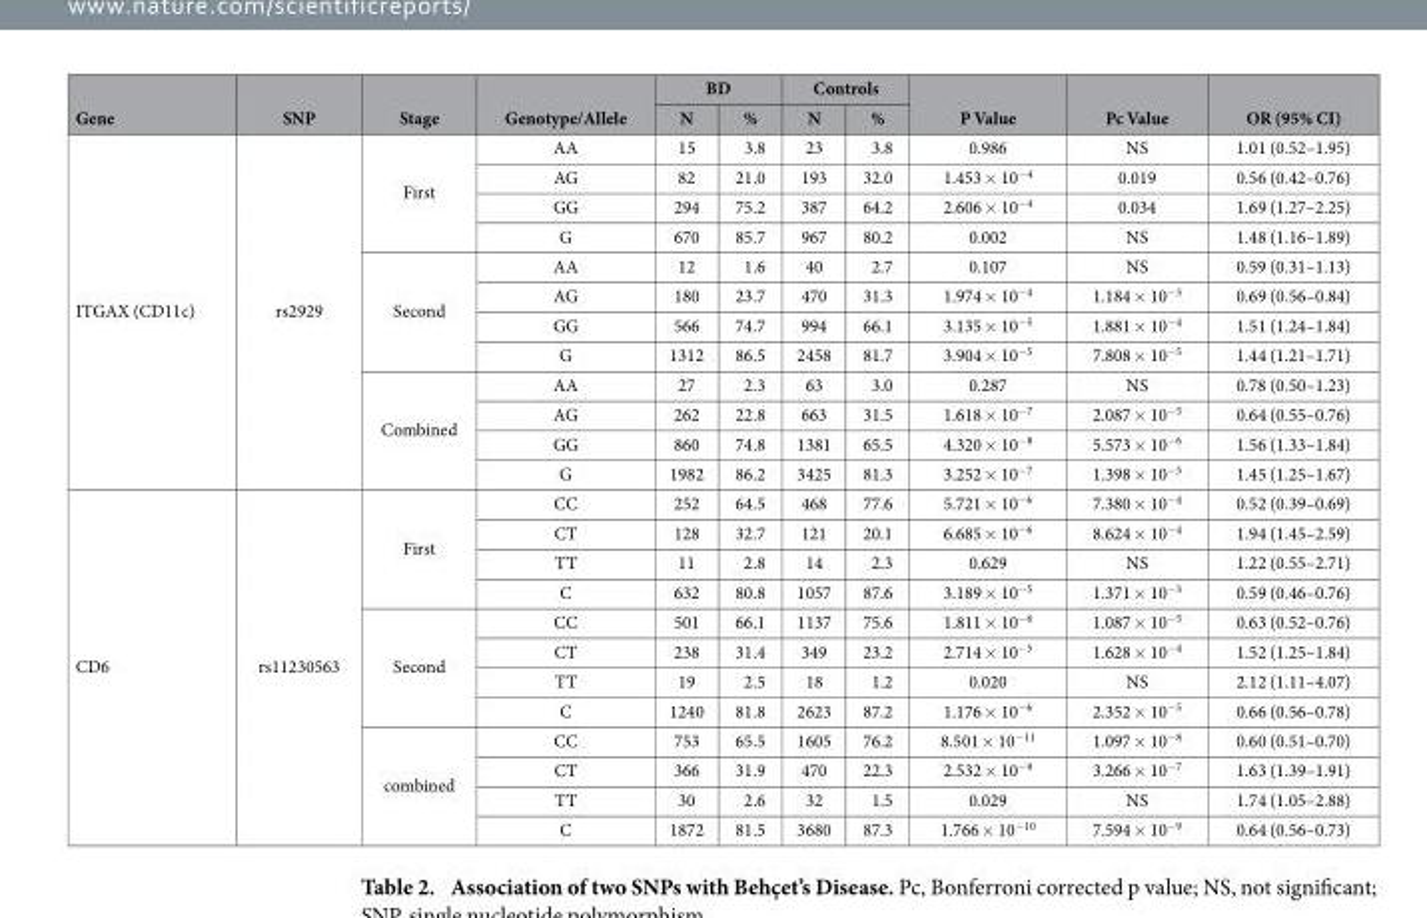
<table><thead><tr><td rowspan="2">Gene</td><td rowspan="2">SNP</td><td rowspan="2">Stage</td><td rowspan="2">Genotype/Allele</td><td colspan="2">BD</td><td colspan="2">Controls</td><td rowspan="2">P Value</td><td rowspan="2">Pc Value</td><td rowspan="2">OR (95% CI)</td></tr><tr><td>N</td><td>%</td><td>N</td><td>%</td></tr></thead><tbody><tr><td rowspan="12">ITGAX (CD11c)</td><td rowspan="12">rs2929</td><td rowspan="4">First</td><td>AA</td><td>15</td><td>3.8</td><td>23</td><td>3.8</td><td>0.986</td><td>NS</td><td>1.01 (0.52–1.95)</td></tr><tr><td>AG</td><td>82</td><td>21.0</td><td>193</td><td>32.0</td><td>1.453 × 10<sup>−4</sup></td><td>0.019</td><td>0.56 (0.42–0.76)</td></tr><tr><td>GG</td><td>294</td><td>75.2</td><td>387</td><td>64.2</td><td>2.606 × 10<sup>−4</sup></td><td>0.034</td><td>1.69 (1.27–2.25)</td></tr><tr><td>G</td><td>670</td><td>85.7</td><td>967</td><td>80.2</td><td>0.002</td><td>NS</td><td>1.48 (1.16–1.89)</td></tr><tr><td rowspan="4">Second</td><td>AA</td><td>12</td><td>1.6</td><td>40</td><td>2.7</td><td>0.107</td><td>NS</td><td>0.59 (0.31–1.13)</td></tr><tr><td>AG</td><td>180</td><td>23.7</td><td>470</td><td>31.3</td><td>1.974 × 10<sup>−4</sup></td><td>1.184 × 10<sup>−3</sup></td><td>0.69 (0.56–0.84)</td></tr><tr><td>GG</td><td>566</td><td>74.7</td><td>994</td><td>66.1</td><td>3.135 × 10<sup>−5</sup></td><td>1.881 × 10<sup>−4</sup></td><td>1.51 (1.24–1.84)</td></tr><tr><td>G</td><td>1312</td><td>86.5</td><td>2458</td><td>81.7</td><td>3.904 × 10<sup>−5</sup></td><td>7.808 × 10<sup>−5</sup></td><td>1.44 (1.21–1.71)</td></tr><tr><td rowspan="4">Combined</td><td>AA</td><td>27</td><td>2.3</td><td>63</td><td>3.0</td><td>0.287</td><td>NS</td><td>0.78 (0.50–1.23)</td></tr><tr><td>AG</td><td>262</td><td>22.8</td><td>663</td><td>31.5</td><td>1.618 × 10<sup>−7</sup></td><td>2.087 × 10<sup>−5</sup></td><td>0.64 (0.55–0.76)</td></tr><tr><td>GG</td><td>860</td><td>74.8</td><td>1381</td><td>65.5</td><td>4.320 × 10<sup>−8</sup></td><td>5.573 × 10<sup>−6</sup></td><td>1.56 (1.33–1.84)</td></tr><tr><td>G</td><td>1982</td><td>86.2</td><td>3425</td><td>81.3</td><td>3.252 × 10<sup>−7</sup></td><td>1.398 × 10<sup>−5</sup></td><td>1.45 (1.25–1.67)</td></tr><tr><td rowspan="12">CD6</td><td rowspan="12">rs11230563</td><td rowspan="4">First</td><td>CC</td><td>252</td><td>64.5</td><td>468</td><td>77.6</td><td>5.721 × 10<sup>−6</sup></td><td>7.380 × 10<sup>−4</sup></td><td>0.52 (0.39–0.69)</td></tr><tr><td>CT</td><td>128</td><td>32.7</td><td>121</td><td>20.1</td><td>6.685 × 10<sup>−6</sup></td><td>8.624 × 10<sup>−4</sup></td><td>1.94 (1.45–2.59)</td></tr><tr><td>TT</td><td>11</td><td>2.8</td><td>14</td><td>2.3</td><td>0.629</td><td>NS</td><td>1.22 (0.55–2.71)</td></tr><tr><td>C</td><td>632</td><td>80.8</td><td>1057</td><td>87.6</td><td>3.189 × 10<sup>−5</sup></td><td>1.371 × 10<sup>−3</sup></td><td>0.59 (0.46–0.76)</td></tr><tr><td rowspan="4">Second</td><td>CC</td><td>501</td><td>66.1</td><td>1137</td><td>75.6</td><td>1.811 × 10<sup>−6</sup></td><td>1.087 × 10<sup>−5</sup></td><td>0.63 (0.52–0.76)</td></tr><tr><td>CT</td><td>238</td><td>31.4</td><td>349</td><td>23.2</td><td>2.714 × 10<sup>−5</sup></td><td>1.628 × 10<sup>−4</sup></td><td>1.52 (1.25–1.84)</td></tr><tr><td>TT</td><td>19</td><td>2.5</td><td>18</td><td>1.2</td><td>0.020</td><td>NS</td><td>2.12 (1.11–4.07)</td></tr><tr><td>C</td><td>1240</td><td>81.8</td><td>2623</td><td>87.2</td><td>1.176 × 10<sup>−6</sup></td><td>2.352 × 10<sup>−5</sup></td><td>0.66 (0.56–0.78)</td></tr><tr><td rowspan="4">combined</td><td>CC</td><td>753</td><td>65.5</td><td>1605</td><td>76.2</td><td>8.501 × 10<sup>−11</sup></td><td>1.097 × 10<sup>−8</sup></td><td>0.60 (0.51–0.70)</td></tr><tr><td>CT</td><td>366</td><td>31.9</td><td>470</td><td>22.3</td><td>2.532 × 10<sup>−9</sup></td><td>3.266 × 10<sup>−7</sup></td><td>1.63 (1.39–1.91)</td></tr><tr><td>TT</td><td>30</td><td>2.6</td><td>32</td><td>1.5</td><td>0.029</td><td>NS</td><td>1.74 (1.05–2.88)</td></tr><tr><td>C</td><td>1872</td><td>81.5</td><td>3680</td><td>87.3</td><td>1.766 × 10<sup>−10</sup></td><td>7.594 × 10<sup>−9</sup></td><td>0.64 (0.56–0.73)</td></tr></tbody></table>